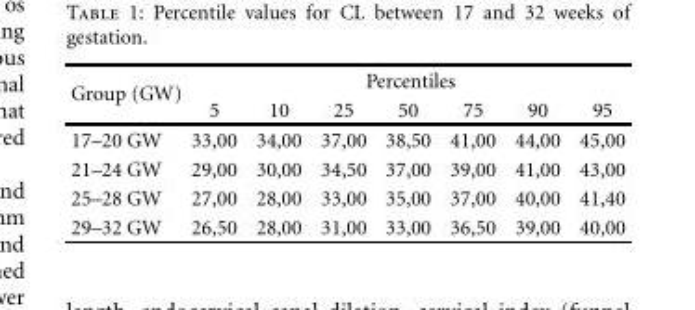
<table><thead><tr><td rowspan="2">Group (GW)</td><td colspan="7">Percentiles</td></tr><tr><td>5</td><td>10</td><td>25</td><td>50</td><td>75</td><td>90</td><td>95</td></tr></thead><tbody><tr><td>17–20 GW</td><td>33,00</td><td>34,00</td><td>37,00</td><td>38,50</td><td>41,00</td><td>44,00</td><td>45,00</td></tr><tr><td>21–24 GW</td><td>29,00</td><td>30,00</td><td>34,50</td><td>37,00</td><td>39,00</td><td>41,00</td><td>43,00</td></tr><tr><td>25–28 GW</td><td>27,00</td><td>28,00</td><td>33,00</td><td>35,00</td><td>37,00</td><td>40,00</td><td>41,40</td></tr><tr><td>29–32 GW</td><td>26,50</td><td>28,00</td><td>31,00</td><td>33,00</td><td>36,50</td><td>39,00</td><td>40,00</td></tr></tbody></table>